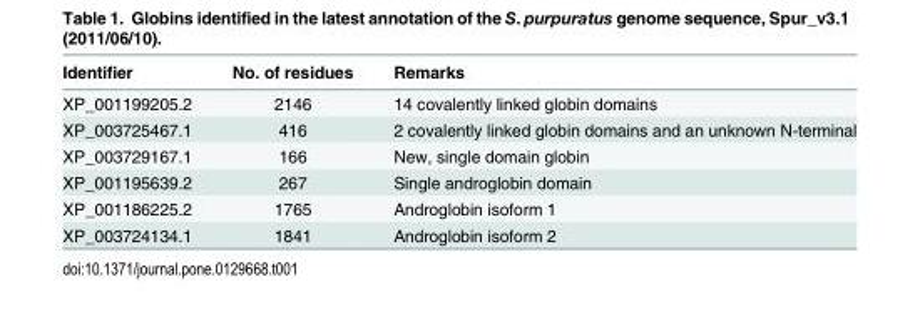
<table><thead><tr><td>Identifier</td><td>No. of residues</td><td>Remarks</td></tr></thead><tbody><tr><td>XP_001199205.2</td><td>2146</td><td>14 covalently linked globin domains</td></tr><tr><td>XP_003725467.1</td><td>416</td><td>2 covalently linked globin domains and an unknown N-terminal</td></tr><tr><td>XP_003729167.1</td><td>166</td><td>New, single domain globin</td></tr><tr><td>XP_001195639.2</td><td>267</td><td>Single androglobin domain</td></tr><tr><td>XP_001186225.2</td><td>1765</td><td>Androglobin isoform 1</td></tr><tr><td>XP_003724134.1</td><td>1841</td><td>Androglobin isoform 2</td></tr></tbody></table>